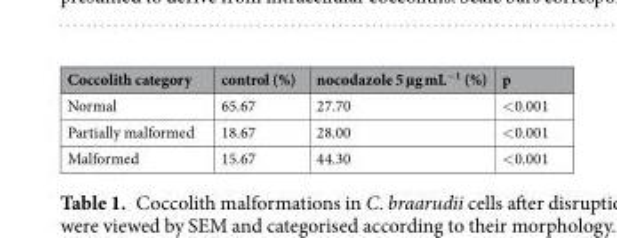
<table><thead><tr><td>Coccolith category</td><td>control (%)</td><td>nocodazole 5 µg mL<sup>−1</sup> (%)</td><td>p</td></tr></thead><tbody><tr><td>Normal</td><td>65.67</td><td>27.70</td><td>&lt;0.001</td></tr><tr><td>Partially malformed</td><td>18.67</td><td>28.00</td><td>&lt;0.001</td></tr><tr><td>Malformed</td><td>15.67</td><td>44.30</td><td>&lt;0.001</td></tr></tbody></table>